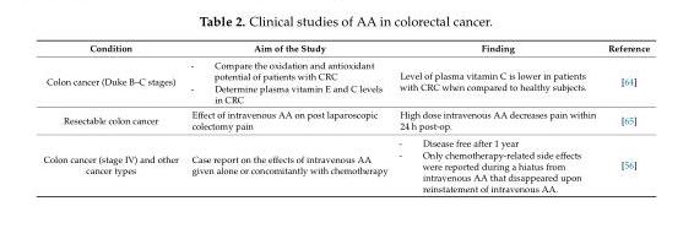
<table><thead><tr><td>Condition</td><td>Aim of the Study</td><td>Finding</td><td>Reference</td></tr></thead><tbody><tr><td>Colon cancer (Duke B–C stages)</td><td>- Compare the oxidation and antioxidant potential of patients with CRC - Determine plasma vitamin E and C levels in CRC</td><td>Level of plasma vitamin C is lower in patients with CRC when compared to healthy subjects.</td><td>[64]</td></tr><tr><td>Resectable colon cancer</td><td>Effect of intravenous AA on post laparoscopic colectomy pain</td><td>High dose intravenous AA decreases pain within 24 h post-op.</td><td>[65]</td></tr><tr><td>Colon cancer (stage IV) and other cancer types</td><td>Case report on the effects of intravenous AA given alone or concomitantly with chemotherapy</td><td>- Disease free after 1 year - Only chemotherapy-related side effects were reported during a hiatus from intravenous AA that disappeared upon reinstatement of intravenous AA.</td><td>[56]</td></tr></tbody></table>